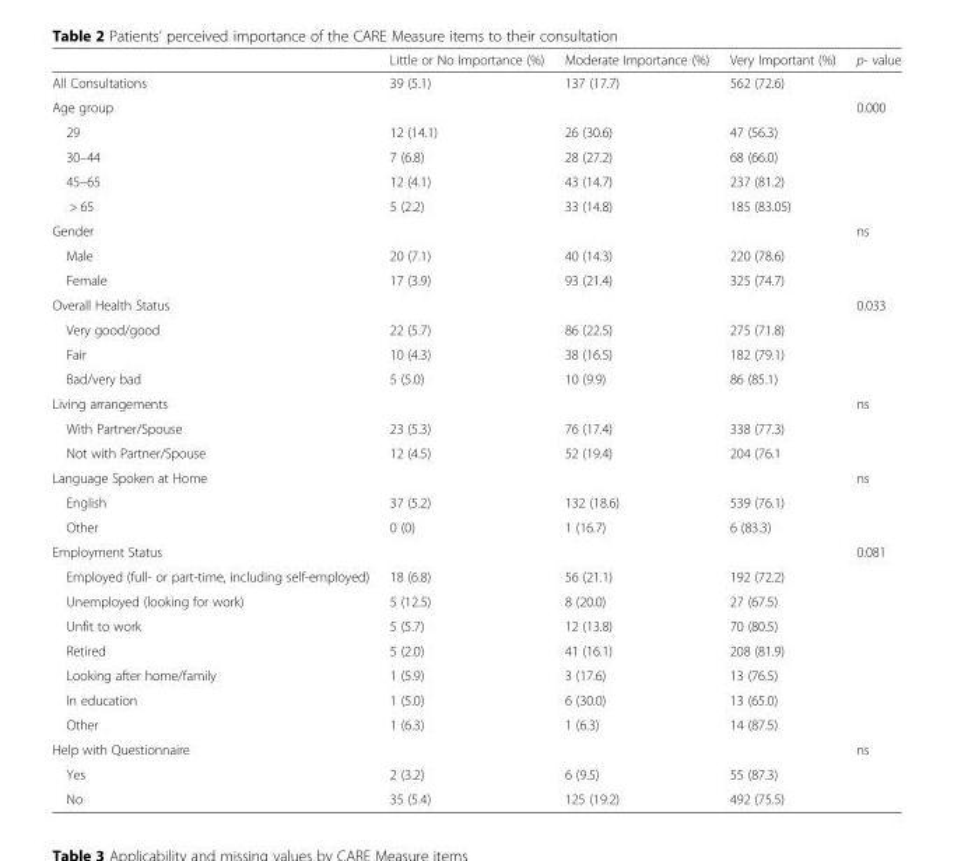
<table><thead><tr><td></td><td>Little or No Importance (%)</td><td>Moderate Importance (%)</td><td>Very Important (%)</td><td>p- value</td></tr></thead><tbody><tr><td>All Consultations</td><td>39 (5.1)</td><td>137 (17.7)</td><td>562 (72.6)</td><td></td></tr><tr><td>Age group</td><td></td><td></td><td></td><td>0.000</td></tr><tr><td>29</td><td>12 (14.1)</td><td>26 (30.6)</td><td>47 (56.3)</td><td></td></tr><tr><td>30–44</td><td>7 (6.8)</td><td>28 (27.2)</td><td>68 (66.0)</td><td></td></tr><tr><td>45–65</td><td>12 (4.1)</td><td>43 (14.7)</td><td>237 (81.2)</td><td></td></tr><tr><td>&gt; 65</td><td>5 (2.2)</td><td>33 (14.8)</td><td>185 (83.05)</td><td></td></tr><tr><td>Gender</td><td></td><td></td><td></td><td>ns</td></tr><tr><td>Male</td><td>20 (7.1)</td><td>40 (14.3)</td><td>220 (78.6)</td><td></td></tr><tr><td>Female</td><td>17 (3.9)</td><td>93 (21.4)</td><td>325 (74.7)</td><td></td></tr><tr><td>Overall Health Status</td><td></td><td></td><td></td><td>0.033</td></tr><tr><td>Very good/good</td><td>22 (5.7)</td><td>86 (22.5)</td><td>275 (71.8)</td><td></td></tr><tr><td>Fair</td><td>10 (4.3)</td><td>38 (16.5)</td><td>182 (79.1)</td><td></td></tr><tr><td>Bad/very bad</td><td>5 (5.0)</td><td>10 (9.9)</td><td>86 (85.1)</td><td></td></tr><tr><td>Living arrangements</td><td></td><td></td><td></td><td>ns</td></tr><tr><td>With Partner/Spouse</td><td>23 (5.3)</td><td>76 (17.4)</td><td>338 (77.3)</td><td></td></tr><tr><td>Not with Partner/Spouse</td><td>12 (4.5)</td><td>52 (19.4)</td><td>204 (76.1</td><td></td></tr><tr><td>Language Spoken at Home</td><td></td><td></td><td></td><td>ns</td></tr><tr><td>English</td><td>37 (5.2)</td><td>132 (18.6)</td><td>539 (76.1)</td><td></td></tr><tr><td>Other</td><td>0 (0)</td><td>1 (16.7)</td><td>6 (83.3)</td><td></td></tr><tr><td>Employment Status</td><td></td><td></td><td></td><td>0.081</td></tr><tr><td>Employed (full- or part-time, including self-employed)</td><td>18 (6.8)</td><td>56 (21.1)</td><td>192 (72.2)</td><td></td></tr><tr><td>Unemployed (looking for work)</td><td>5 (12.5)</td><td>8 (20.0)</td><td>27 (67.5)</td><td></td></tr><tr><td>Unfit to work</td><td>5 (5.7)</td><td>12 (13.8)</td><td>70 (80.5)</td><td></td></tr><tr><td>Retired</td><td>5 (2.0)</td><td>41 (16.1)</td><td>208 (81.9)</td><td></td></tr><tr><td>Looking after home/family</td><td>1 (5.9)</td><td>3 (17.6)</td><td>13 (76.5)</td><td></td></tr><tr><td>In education</td><td>1 (5.0)</td><td>6 (30.0)</td><td>13 (65.0)</td><td></td></tr><tr><td>Other</td><td>1 (6.3)</td><td>1 (6.3)</td><td>14 (87.5)</td><td></td></tr><tr><td>Help with Questionnaire</td><td></td><td></td><td></td><td>ns</td></tr><tr><td>Yes</td><td>2 (3.2)</td><td>6 (9.5)</td><td>55 (87.3)</td><td></td></tr><tr><td>No</td><td>35 (5.4)</td><td>125 (19.2)</td><td>492 (75.5)</td><td></td></tr></tbody></table>